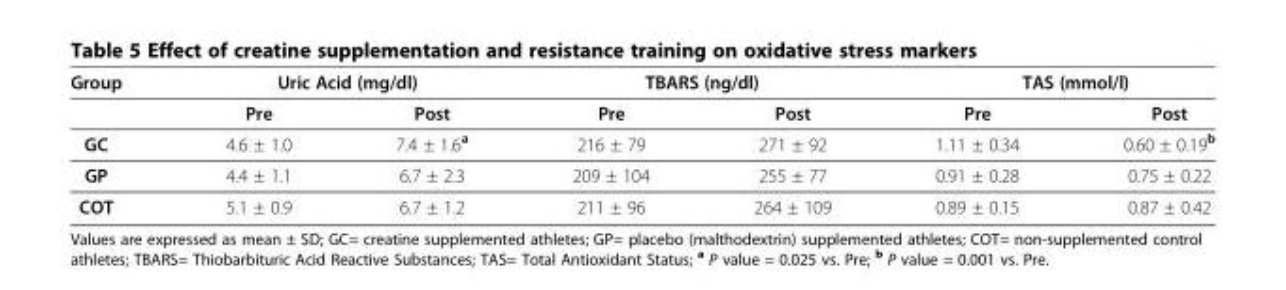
<table><thead><tr><td rowspan="2">Group</td><td colspan="2">Uric Acid (mg/dl)</td><td colspan="2">TBARS (ng/dl)</td><td colspan="2">TAS (mmol/l)</td></tr><tr><td>Pre</td><td>Post</td><td>Pre</td><td>Post</td><td>Pre</td><td>Post</td></tr></thead><tbody><tr><td>GC</td><td>4.6 ± 1.0</td><td>7.4 ± 1.6<sup>a</sup></td><td>216 ± 79</td><td>271 ± 92</td><td>1.11 ± 0.34</td><td>0.60 ± 0.19<sup>b</sup></td></tr><tr><td>GP</td><td>4.4 ± 1.1</td><td>6.7 ± 2.3</td><td>209 ± 104</td><td>255 ± 77</td><td>0.91 ± 0.28</td><td>0.75 ± 0.22</td></tr><tr><td>COT</td><td>5.1 ± 0.9</td><td>6.7 ± 1.2</td><td>211 ± 96</td><td>264 ± 109</td><td>0.89 ± 0.15</td><td>0.87 ± 0.42</td></tr></tbody></table>